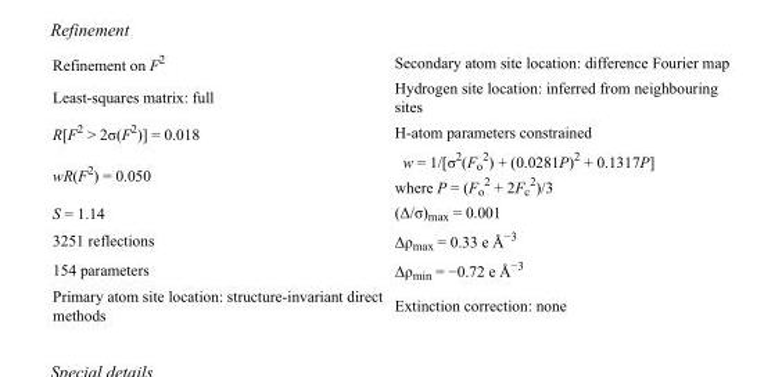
<table><tbody><tr><td>Refinement on F<sup>2</sup></td><td>Secondary atom site location: difference Fourier map</td></tr><tr><td>Least-squares matrix: full</td><td>Hydrogen site location: inferred from neighbouring sites</td></tr><tr><td>R[F<sup>2</sup> &gt; 2σ(F<sup>2</sup>)] = 0.018</td><td>H-atom parameters constrained</td></tr><tr><td>wR(F<sup>2</sup>) = 0.050</td><td>w = 1/[σ<sup>2</sup>(F<sub>o</sub> <sup>2</sup>) + (0.0281P)<sup>2</sup> + 0.1317P] where P = (F<sub>o</sub> <sup>2</sup> + 2F<sub>c</sub> <sup>2</sup>)/3</td></tr><tr><td>S = 1.14</td><td>(Δ/σ)<sub>max</sub> = 0.001</td></tr><tr><td>3251 reflections</td><td>Δρ<sub>max</sub> = 0.33 e Å<sup>−3</sup></td></tr><tr><td>154 parameters</td><td>Δρ<sub>min</sub> = −0.72 e Å<sup>−3</sup></td></tr><tr><td>Primary atom site location: structure-invariant direct methods</td><td>Extinction correction: none</td></tr></tbody></table>